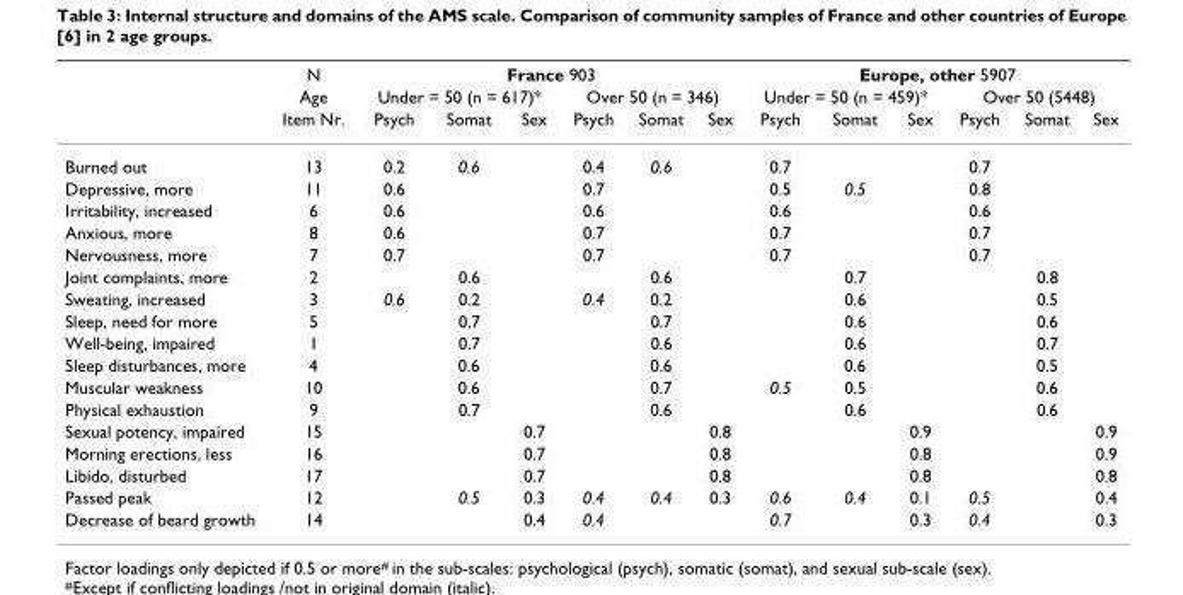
<table><thead><tr><td rowspan="3"></td><td rowspan="3">N Age Item Nr.</td><td colspan="6">France 903</td><td colspan="6">Europe, other 5907</td></tr><tr><td colspan="3">Under = 50 (n = 617)*</td><td colspan="3">Over 50 (n = 346)</td><td colspan="3">Under = 50 (n = 459)*</td><td colspan="3">Over 50 (5448)</td></tr><tr><td>Psych</td><td>Somat</td><td>Sex</td><td>Psych</td><td>Somat</td><td>Sex</td><td>Psych</td><td>Somat</td><td>Sex</td><td>Psych</td><td>Somat</td><td>Sex</td></tr></thead><tbody><tr><td>Burned out</td><td>13</td><td>0.2</td><td>0.6</td><td></td><td>0.4</td><td>0.6</td><td></td><td>0.7</td><td></td><td></td><td>0.7</td><td></td><td></td></tr><tr><td>Depressive, more</td><td>11</td><td>0.6</td><td></td><td></td><td>0.7</td><td></td><td></td><td>0.5</td><td>0.5</td><td></td><td>0.8</td><td></td><td></td></tr><tr><td>Irritability, increased</td><td>6</td><td>0.6</td><td></td><td></td><td>0.6</td><td></td><td></td><td>0.6</td><td></td><td></td><td>0.6</td><td></td><td></td></tr><tr><td>Anxious, more</td><td>8</td><td>0.6</td><td></td><td></td><td>0.7</td><td></td><td></td><td>0.7</td><td></td><td></td><td>0.7</td><td></td><td></td></tr><tr><td>Nervousness, more</td><td>7</td><td>0.7</td><td></td><td></td><td>0.7</td><td></td><td></td><td>0.7</td><td></td><td></td><td>0.7</td><td></td><td></td></tr><tr><td>Joint complaints, more</td><td>2</td><td></td><td>0.6</td><td></td><td></td><td>0.6</td><td></td><td></td><td>0.7</td><td></td><td></td><td>0.8</td><td></td></tr><tr><td>Sweating, increased</td><td>3</td><td>0.6</td><td>0.2</td><td></td><td>0.4</td><td>0.2</td><td></td><td></td><td>0.6</td><td></td><td></td><td>0.5</td><td></td></tr><tr><td>Sleep, need for more</td><td>5</td><td></td><td>0.7</td><td></td><td></td><td>0.7</td><td></td><td></td><td>0.6</td><td></td><td></td><td>0.6</td><td></td></tr><tr><td>Well-being, impaired</td><td>1</td><td></td><td>0.7</td><td></td><td></td><td>0.6</td><td></td><td></td><td>0.6</td><td></td><td></td><td>0.7</td><td></td></tr><tr><td>Sleep disturbances, more</td><td>4</td><td></td><td>0.6</td><td></td><td></td><td>0.6</td><td></td><td></td><td>0.6</td><td></td><td></td><td>0.5</td><td></td></tr><tr><td>Muscular weakness</td><td>10</td><td></td><td>0.6</td><td></td><td></td><td>0.7</td><td></td><td>0.5</td><td>0.5</td><td></td><td></td><td>0.6</td><td></td></tr><tr><td>Physical exhaustion</td><td>9</td><td></td><td>0.7</td><td></td><td></td><td>0.6</td><td></td><td></td><td>0.6</td><td></td><td></td><td>0.6</td><td></td></tr><tr><td>Sexual potency, impaired</td><td>15</td><td></td><td></td><td>0.7</td><td></td><td></td><td>0.8</td><td></td><td></td><td>0.9</td><td></td><td></td><td>0.9</td></tr><tr><td>Morning erections, less</td><td>16</td><td></td><td></td><td>0.7</td><td></td><td></td><td>0.8</td><td></td><td></td><td>0.8</td><td></td><td></td><td>0.9</td></tr><tr><td>Libido, disturbed</td><td>17</td><td></td><td></td><td>0.7</td><td></td><td></td><td>0.8</td><td></td><td></td><td>0.8</td><td></td><td></td><td>0.8</td></tr><tr><td>Passed peak</td><td>12</td><td></td><td>0.5</td><td>0.3</td><td>0.4</td><td>0.4</td><td>0.3</td><td>0.6</td><td>0.4</td><td>0.1</td><td>0.5</td><td></td><td>0.4</td></tr><tr><td>Decrease of beard growth</td><td>14</td><td></td><td></td><td>0.4</td><td>0.4</td><td></td><td></td><td>0.7</td><td></td><td>0.3</td><td>0.4</td><td></td><td>0.3</td></tr></tbody></table>